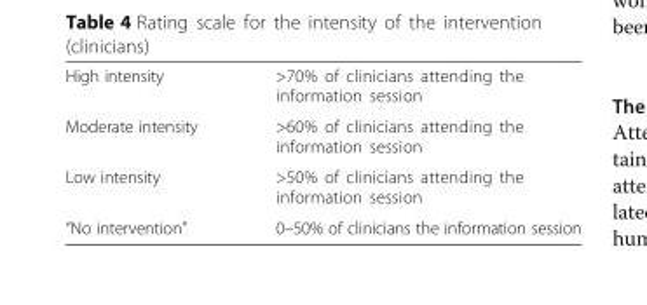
<table><tbody><tr><td>High intensity</td><td>&gt;70% of clinicians attending the information session</td></tr><tr><td>Moderate intensity</td><td>&gt;60% of clinicians attending the information session</td></tr><tr><td>Low intensity</td><td>&gt;50% of clinicians attending the information session</td></tr><tr><td>“No intervention”</td><td>0–50% of clinicians the information session</td></tr></tbody></table>